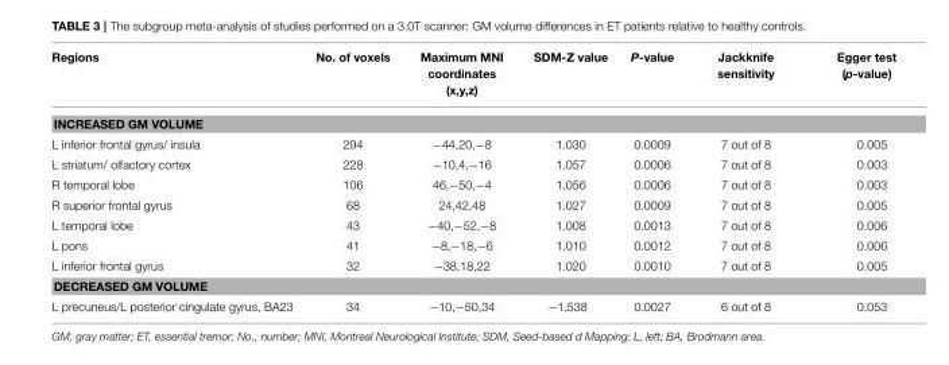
<table><thead><tr><td>Regions</td><td>No. of voxels</td><td>Maximum MNI coordinates (x,y,z)</td><td>SDM-Z value</td><td>P-value</td><td>Jackknife sensitivity</td><td>Egger test (p-value)</td></tr></thead><tbody><tr><td colspan="7">INCREASED GM VOLUME</td></tr><tr><td>L inferior frontal gyrus/ insula</td><td>294</td><td>−44,20,−8</td><td>1.030</td><td>0.0009</td><td>7 out of 8</td><td>0.005</td></tr><tr><td>L striatum/ olfactory cortex</td><td>228</td><td>−10,4,−16</td><td>1.057</td><td>0.0006</td><td>7 out of 8</td><td>0.003</td></tr><tr><td>R temporal lobe</td><td>106</td><td>46,−50,−4</td><td>1.056</td><td>0.0006</td><td>7 out of 8</td><td>0.003</td></tr><tr><td>R superior frontal gyrus</td><td>68</td><td>24,42,48</td><td>1.027</td><td>0.0009</td><td>7 out of 8</td><td>0.005</td></tr><tr><td>L temporal lobe</td><td>43</td><td>−40,−52,−8</td><td>1.008</td><td>0.0013</td><td>7 out of 8</td><td>0.006</td></tr><tr><td>L pons</td><td>41</td><td>−8,−18,−6</td><td>1.010</td><td>0.0012</td><td>7 out of 8</td><td>0.006</td></tr><tr><td>L inferior frontal gyrus</td><td>32</td><td>−38,18,22</td><td>1.020</td><td>0.0010</td><td>7 out of 8</td><td>0.005</td></tr><tr><td colspan="7">DECREASED GM VOLUME</td></tr><tr><td>L precuneus/L posterior cingulate gyrus, BA23</td><td>34</td><td>−10,−50,34</td><td>−1.538</td><td>0.0027</td><td>6 out of 8</td><td>0.053</td></tr></tbody></table>